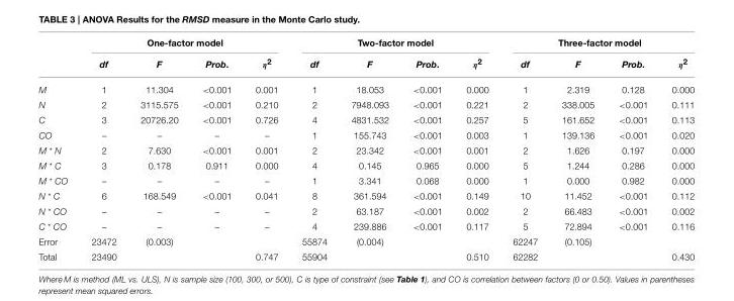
<table><thead><tr><td rowspan="2"></td><td colspan="4">One-factor model</td><td colspan="4">Two-factor model</td><td colspan="4">Three-factor model</td></tr><tr><td>df</td><td>F</td><td>Prob.</td><td>η<sup>2</sup></td><td>df</td><td>F</td><td>Prob.</td><td>η<sup>2</sup></td><td>df</td><td>F</td><td>Prob.</td><td>η<sup>2</sup></td></tr></thead><tbody><tr><td>M</td><td>1</td><td>11.304</td><td>&lt;0.001</td><td>0.001</td><td>1</td><td>18.053</td><td>&lt;0.001</td><td>0.000</td><td>1</td><td>2.319</td><td>0.128</td><td>0.000</td></tr><tr><td>N</td><td>2</td><td>3115.575</td><td>&lt;0.001</td><td>0.210</td><td>2</td><td>7948.093</td><td>&lt;0.001</td><td>0.221</td><td>2</td><td>338.005</td><td>&lt;0.001</td><td>0.111</td></tr><tr><td>C</td><td>3</td><td>20726.20</td><td>&lt;0.001</td><td>0.726</td><td>4</td><td>4831.532</td><td>&lt;0.001</td><td>0.257</td><td>5</td><td>161.652</td><td>&lt;0.001</td><td>0.113</td></tr><tr><td>CO</td><td>–</td><td>–</td><td>–</td><td>–</td><td>1</td><td>155.743</td><td>&lt;0.001</td><td>0.003</td><td>1</td><td>139.136</td><td>&lt;0.001</td><td>0.020</td></tr><tr><td>M * N</td><td>2</td><td>7.630</td><td>&lt;0.001</td><td>0.001</td><td>2</td><td>23.342</td><td>&lt;0.001</td><td>0.001</td><td>2</td><td>1.626</td><td>0.197</td><td>0.000</td></tr><tr><td>M * C</td><td>3</td><td>0.178</td><td>0.911</td><td>0.000</td><td>4</td><td>0.145</td><td>0.965</td><td>0.000</td><td>5</td><td>1.244</td><td>0.286</td><td>0.000</td></tr><tr><td>M * CO</td><td>–</td><td>–</td><td>–</td><td>–</td><td>1</td><td>3.341</td><td>0.068</td><td>0.000</td><td>1</td><td>0.000</td><td>0.982</td><td>0.000</td></tr><tr><td>N * C</td><td>6</td><td>168.549</td><td>&lt;0.001</td><td>0.041</td><td>8</td><td>361.594</td><td>&lt;0.001</td><td>0.149</td><td>10</td><td>11.452</td><td>&lt;0.001</td><td>0.112</td></tr><tr><td>N * CO</td><td>–</td><td>–</td><td>–</td><td>–</td><td>2</td><td>63.187</td><td>&lt;0.001</td><td>0.002</td><td>2</td><td>66.483</td><td>&lt;0.001</td><td>0.002</td></tr><tr><td>C * CO</td><td>–</td><td>–</td><td>–</td><td>–</td><td>4</td><td>239.886</td><td>&lt;0.001</td><td>0.117</td><td>5</td><td>72.894</td><td>&lt;0.001</td><td>0.116</td></tr><tr><td>Error</td><td>23472</td><td>(0.003)</td><td></td><td></td><td>55874</td><td>(0.004)</td><td></td><td></td><td>62247</td><td>(0.105)</td><td></td><td></td></tr><tr><td>Total</td><td>23490</td><td></td><td></td><td>0.747</td><td>55904</td><td></td><td></td><td>0.510</td><td>62282</td><td></td><td></td><td>0.430</td></tr></tbody></table>